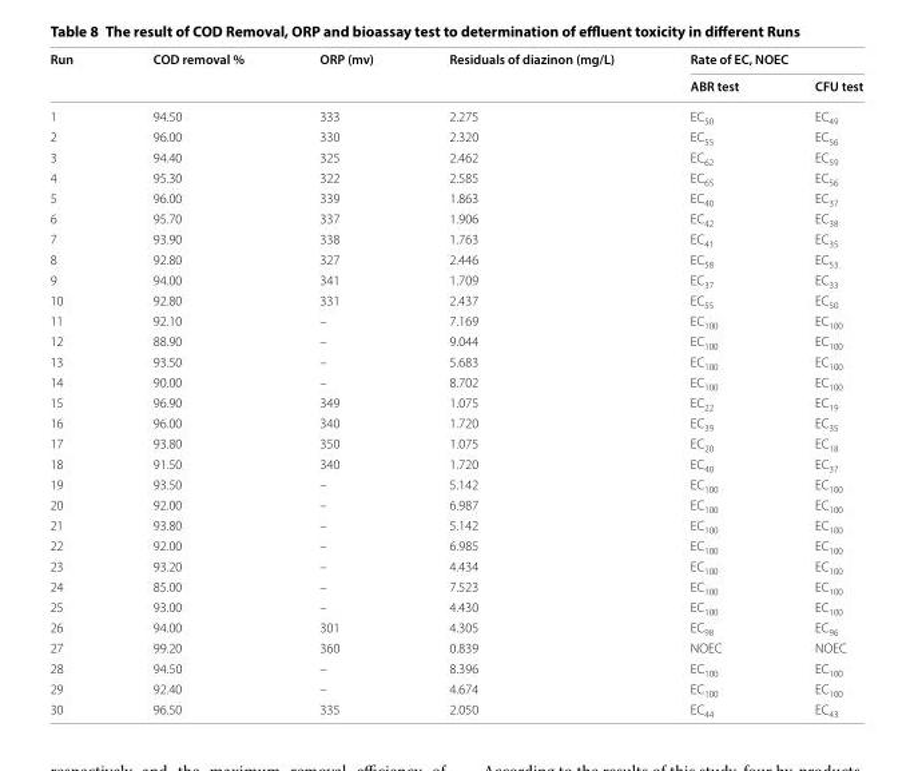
<table><thead><tr><td rowspan="2">Run</td><td rowspan="2">COD removal %</td><td rowspan="2">ORP (mv)</td><td rowspan="2">Residuals of diazinon (mg/L)</td><td colspan="2">Rate of EC, NOEC</td></tr><tr><td>ABR test</td><td>CFU test</td></tr></thead><tbody><tr><td>1</td><td>94.50</td><td>333</td><td>2.275</td><td>EC<sub>50</sub></td><td>EC<sub>49</sub></td></tr><tr><td>2</td><td>96.00</td><td>330</td><td>2.320</td><td>EC<sub>55</sub></td><td>EC<sub>56</sub></td></tr><tr><td>3</td><td>94.40</td><td>325</td><td>2.462</td><td>EC<sub>62</sub></td><td>EC<sub>59</sub></td></tr><tr><td>4</td><td>95.30</td><td>322</td><td>2.585</td><td>EC<sub>65</sub></td><td>EC<sub>56</sub></td></tr><tr><td>5</td><td>96.00</td><td>339</td><td>1.863</td><td>EC<sub>40</sub></td><td>EC<sub>37</sub></td></tr><tr><td>6</td><td>95.70</td><td>337</td><td>1.906</td><td>EC<sub>42</sub></td><td>EC<sub>38</sub></td></tr><tr><td>7</td><td>93.90</td><td>338</td><td>1.763</td><td>EC<sub>41</sub></td><td>EC<sub>35</sub></td></tr><tr><td>8</td><td>92.80</td><td>327</td><td>2.446</td><td>EC<sub>58</sub></td><td>EC<sub>53</sub></td></tr><tr><td>9</td><td>94.00</td><td>341</td><td>1.709</td><td>EC<sub>37</sub></td><td>EC<sub>33</sub></td></tr><tr><td>10</td><td>92.80</td><td>331</td><td>2.437</td><td>EC<sub>55</sub></td><td>EC<sub>50</sub></td></tr><tr><td>11</td><td>92.10</td><td>–</td><td>7.169</td><td>EC<sub>100</sub></td><td>EC<sub>100</sub></td></tr><tr><td>12</td><td>88.90</td><td>–</td><td>9.044</td><td>EC<sub>100</sub></td><td>EC<sub>100</sub></td></tr><tr><td>13</td><td>93.50</td><td>–</td><td>5.683</td><td>EC<sub>100</sub></td><td>EC<sub>100</sub></td></tr><tr><td>14</td><td>90.00</td><td>–</td><td>8.702</td><td>EC<sub>100</sub></td><td>EC<sub>100</sub></td></tr><tr><td>15</td><td>96.90</td><td>349</td><td>1.075</td><td>EC<sub>22</sub></td><td>EC<sub>19</sub></td></tr><tr><td>16</td><td>96.00</td><td>340</td><td>1.720</td><td>EC<sub>39</sub></td><td>EC<sub>35</sub></td></tr><tr><td>17</td><td>93.80</td><td>350</td><td>1.075</td><td>EC<sub>20</sub></td><td>EC<sub>18</sub></td></tr><tr><td>18</td><td>91.50</td><td>340</td><td>1.720</td><td>EC<sub>40</sub></td><td>EC<sub>37</sub></td></tr><tr><td>19</td><td>93.50</td><td>–</td><td>5.142</td><td>EC<sub>100</sub></td><td>EC<sub>100</sub></td></tr><tr><td>20</td><td>92.00</td><td>–</td><td>6.987</td><td>EC<sub>100</sub></td><td>EC<sub>100</sub></td></tr><tr><td>21</td><td>93.80</td><td>–</td><td>5.142</td><td>EC<sub>100</sub></td><td>EC<sub>100</sub></td></tr><tr><td>22</td><td>92.00</td><td>–</td><td>6.985</td><td>EC<sub>100</sub></td><td>EC<sub>100</sub></td></tr><tr><td>23</td><td>93.20</td><td>–</td><td>4.434</td><td>EC<sub>100</sub></td><td>EC<sub>100</sub></td></tr><tr><td>24</td><td>85.00</td><td>–</td><td>7.523</td><td>EC<sub>100</sub></td><td>EC<sub>100</sub></td></tr><tr><td>25</td><td>93.00</td><td>–</td><td>4.430</td><td>EC<sub>100</sub></td><td>EC<sub>100</sub></td></tr><tr><td>26</td><td>94.00</td><td>301</td><td>4.305</td><td>EC<sub>98</sub></td><td>EC<sub>96</sub></td></tr><tr><td>27</td><td>99.20</td><td>360</td><td>0.839</td><td>NOEC</td><td>NOEC</td></tr><tr><td>28</td><td>94.50</td><td>–</td><td>8.396</td><td>EC<sub>100</sub></td><td>EC<sub>100</sub></td></tr><tr><td>29</td><td>92.40</td><td>–</td><td>4.674</td><td>EC<sub>100</sub></td><td>EC<sub>100</sub></td></tr><tr><td>30</td><td>96.50</td><td>335</td><td>2.050</td><td>EC<sub>44</sub></td><td>EC<sub>43</sub></td></tr></tbody></table>